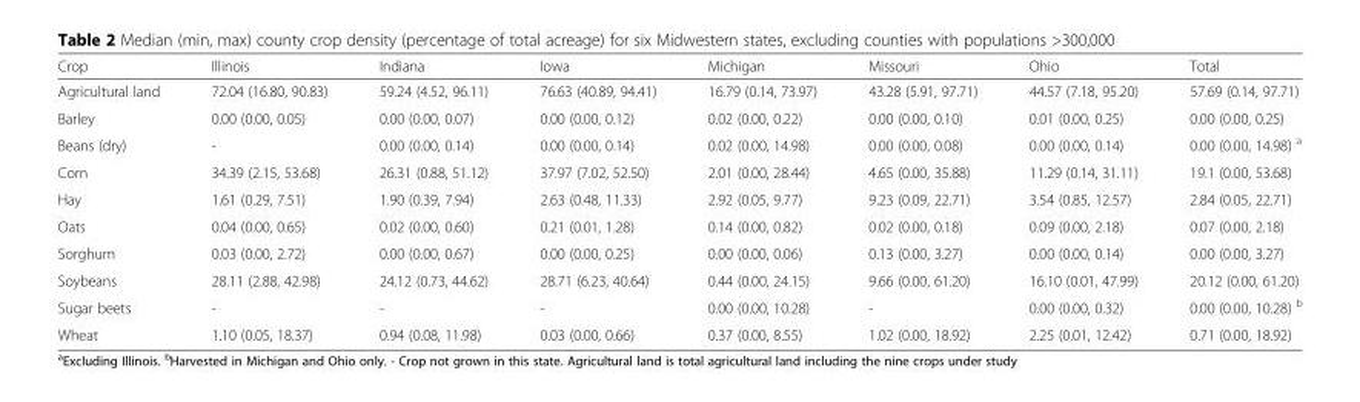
<table><thead><tr><td>Crop</td><td>Illinois</td><td>Indiana</td><td>Iowa</td><td>Michigan</td><td>Missouri</td><td>Ohio</td><td>Total</td></tr></thead><tbody><tr><td>Agricultural land</td><td>72.04 (16.80, 90.83)</td><td>59.24 (4.52, 96.11)</td><td>76.63 (40.89, 94.41)</td><td>16.79 (0.14, 73.97)</td><td>43.28 (5.91, 97.71)</td><td>44.57 (7.18, 95.20)</td><td>57.69 (0.14, 97.71)</td></tr><tr><td>Barley</td><td>0.00 (0.00, 0.05)</td><td>0.00 (0.00, 0.07)</td><td>0.00 (0.00, 0.12)</td><td>0.02 (0.00, 0.22)</td><td>0.00 (0.00, 0.10)</td><td>0.01 (0.00, 0.25)</td><td>0.00 (0.00, 0.25)</td></tr><tr><td>Beans (dry)</td><td>-</td><td>0.00 (0.00, 0.14)</td><td>0.00 (0.00, 0.14)</td><td>0.02 (0.00, 14.98)</td><td>0.00 (0.00, 0.08)</td><td>0.00 (0.00, 0.14)</td><td>0.00 (0.00, 14.98) <sup>a</sup></td></tr><tr><td>Corn</td><td>34.39 (2.15, 53.68)</td><td>26.31 (0.88, 51.12)</td><td>37.97 (7.02, 52.50)</td><td>2.01 (0.00, 28.44)</td><td>4.65 (0.00, 35.88)</td><td>11.29 (0.14, 31.11)</td><td>19.1 (0.00, 53.68)</td></tr><tr><td>Hay</td><td>1.61 (0.29, 7.51)</td><td>1.90 (0.39, 7.94)</td><td>2.63 (0.48, 11.33)</td><td>2.92 (0.05, 9.77)</td><td>9.23 (0.09, 22.71)</td><td>3.54 (0.85, 12.57)</td><td>2.84 (0.05, 22.71)</td></tr><tr><td>Oats</td><td>0.04 (0.00, 0.65)</td><td>0.02 (0.00, 0.60)</td><td>0.21 (0.01, 1.28)</td><td>0.14 (0.00, 0.82)</td><td>0.02 (0.00, 0.18)</td><td>0.09 (0.00, 2.18)</td><td>0.07 (0.00, 2.18)</td></tr><tr><td>Sorghum</td><td>0.03 (0.00, 2.72)</td><td>0.00 (0.00, 0.67)</td><td>0.00 (0.00, 0.25)</td><td>0.00 (0.00, 0.06)</td><td>0.13 (0.00, 3.27)</td><td>0.00 (0.00, 0.14)</td><td>0.00 (0.00, 3.27)</td></tr><tr><td>Soybeans</td><td>28.11 (2.88, 42.98)</td><td>24.12 (0.73, 44.62)</td><td>28.71 (6.23, 40.64)</td><td>0.44 (0.00, 24.15)</td><td>9.66 (0.00, 61.20)</td><td>16.10 (0.01, 47.99)</td><td>20.12 (0.00, 61.20)</td></tr><tr><td>Sugar beets</td><td>-</td><td>-</td><td>-</td><td>0.00 (0.00, 10.28)</td><td>-</td><td>0.00 (0.00, 0.32)</td><td>0.00 (0.00, 10.28) <sup>b</sup></td></tr><tr><td>Wheat</td><td>1.10 (0.05, 18.37)</td><td>0.94 (0.08, 11.98)</td><td>0.03 (0.00, 0.66)</td><td>0.37 (0.00, 8.55)</td><td>1.02 (0.00, 18.92)</td><td>2.25 (0.01, 12.42)</td><td>0.71 (0.00, 18.92)</td></tr></tbody></table>